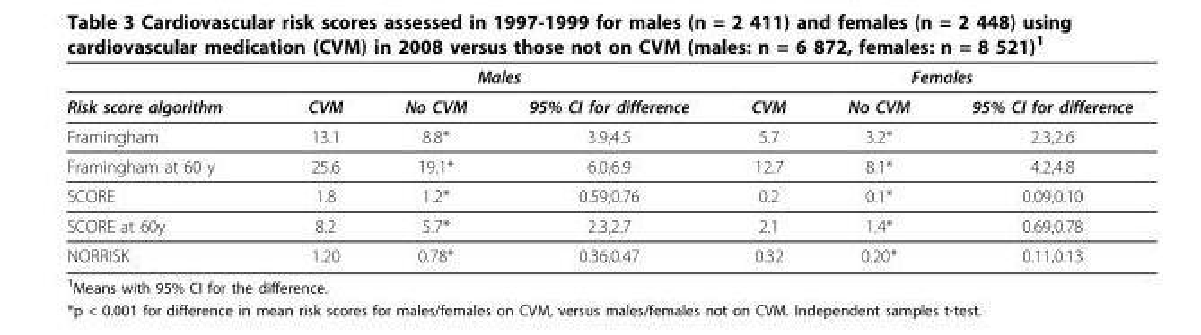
<table><thead><tr><td rowspan="2">Risk score algorithm</td><td colspan="3">Males</td><td colspan="3">Females</td></tr><tr><td>CVM</td><td>No CVM</td><td>95% CI for difference</td><td>CVM</td><td>No CVM</td><td>95% CI for difference</td></tr></thead><tbody><tr><td>Framingham</td><td>13.1</td><td>8.8*</td><td>3.9,4.5</td><td>5.7</td><td>3.2*</td><td>2.3,2.6</td></tr><tr><td>Framingham at 60 y</td><td>25.6</td><td>19.1*</td><td>6.0,6.9</td><td>12.7</td><td>8.1*</td><td>4.2,4.8</td></tr><tr><td>SCORE</td><td>1.8</td><td>1.2*</td><td>0.59,0.76</td><td>0.2</td><td>0.1*</td><td>0.09,0.10</td></tr><tr><td>SCORE at 60y</td><td>8.2</td><td>5.7*</td><td>2.3,2.7</td><td>2.1</td><td>1.4*</td><td>0.69,0.78</td></tr><tr><td>NORRISK</td><td>1.20</td><td>0.78*</td><td>0.36,0.47</td><td>0.32</td><td>0.20*</td><td>0.11,0.13</td></tr></tbody></table>